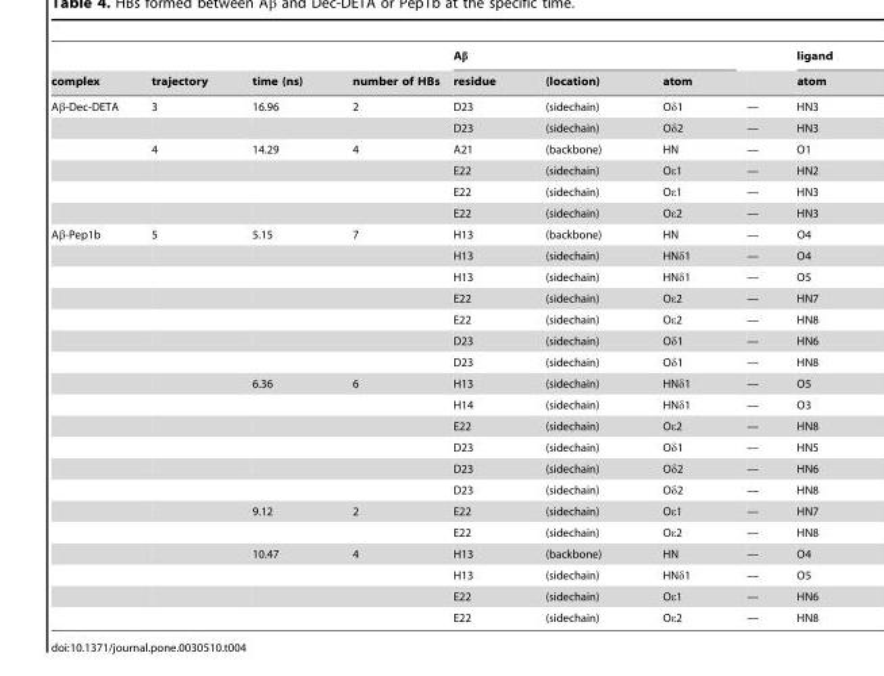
<table><thead><tr><td rowspan="2">complex</td><td rowspan="2">trajectory</td><td rowspan="2">time (ns)</td><td rowspan="2">number of HBs</td><td colspan="3">Aβ</td><td rowspan="2"></td><td rowspan="2">ligand atom</td></tr><tr><td>residue</td><td>(location)</td><td>atom</td></tr></thead><tbody><tr><td rowspan="6">Aβ-Dec-DETA</td><td>3</td><td>16.96</td><td>2</td><td>D23</td><td>(sidechain)</td><td>Oδ1</td><td>—</td><td>HN3</td></tr><tr><td></td><td></td><td></td><td>D23</td><td>(sidechain)</td><td>Oδ2</td><td>—</td><td>HN3</td></tr><tr><td>4</td><td>14.29</td><td>4</td><td>A21</td><td>(backbone)</td><td>HN</td><td>—</td><td>O1</td></tr><tr><td></td><td></td><td></td><td>E22</td><td>(sidechain)</td><td>Oε1</td><td>—</td><td>HN2</td></tr><tr><td></td><td></td><td></td><td>E22</td><td>(sidechain)</td><td>Oε1</td><td>—</td><td>HN3</td></tr><tr><td></td><td></td><td></td><td>E22</td><td>(sidechain)</td><td>Oε2</td><td>—</td><td>HN3</td></tr><tr><td rowspan="19">Aβ-Pep1b</td><td>5</td><td>5.15</td><td>7</td><td>H13</td><td>(backbone)</td><td>HN</td><td>—</td><td>O4</td></tr><tr><td></td><td></td><td></td><td>H13</td><td>(sidechain)</td><td>HNδ1</td><td>—</td><td>O4</td></tr><tr><td></td><td></td><td></td><td>H13</td><td>(sidechain)</td><td>HNδ1</td><td>—</td><td>O5</td></tr><tr><td></td><td></td><td></td><td>E22</td><td>(sidechain)</td><td>Oε2</td><td>—</td><td>HN7</td></tr><tr><td></td><td></td><td></td><td>E22</td><td>(sidechain)</td><td>Oε2</td><td>—</td><td>HN8</td></tr><tr><td></td><td></td><td></td><td>D23</td><td>(sidechain)</td><td>Oδ1</td><td>—</td><td>HN6</td></tr><tr><td></td><td></td><td></td><td>D23</td><td>(sidechain)</td><td>Oδ1</td><td>—</td><td>HN8</td></tr><tr><td></td><td>6.36</td><td>6</td><td>H13</td><td>(sidechain)</td><td>HNδ1</td><td>—</td><td>O5</td></tr><tr><td></td><td></td><td></td><td>H14</td><td>(sidechain)</td><td>HNδ1</td><td>—</td><td>O3</td></tr><tr><td></td><td></td><td></td><td>E22</td><td>(sidechain)</td><td>Oε2</td><td>—</td><td>HN8</td></tr><tr><td></td><td></td><td></td><td>D23</td><td>(sidechain)</td><td>Oδ1</td><td>—</td><td>HN5</td></tr><tr><td></td><td></td><td></td><td>D23</td><td>(sidechain)</td><td>Oδ2</td><td>—</td><td>HN6</td></tr><tr><td></td><td></td><td></td><td>D23</td><td>(sidechain)</td><td>Oδ2</td><td>—</td><td>HN8</td></tr><tr><td></td><td>9.12</td><td>2</td><td>E22</td><td>(sidechain)</td><td>Oε1</td><td>—</td><td>HN7</td></tr><tr><td></td><td></td><td></td><td>E22</td><td>(sidechain)</td><td>Oε2</td><td>—</td><td>HN8</td></tr><tr><td></td><td>10.47</td><td>4</td><td>H13</td><td>(backbone)</td><td>HN</td><td>—</td><td>O4</td></tr><tr><td></td><td></td><td></td><td>H13</td><td>(sidechain)</td><td>HNδ1</td><td>—</td><td>O5</td></tr><tr><td></td><td></td><td></td><td>E22</td><td>(sidechain)</td><td>Oε1</td><td>—</td><td>HN6</td></tr><tr><td></td><td></td><td></td><td>E22</td><td>(sidechain)</td><td>Oε2</td><td>—</td><td>HN8</td></tr></tbody></table>